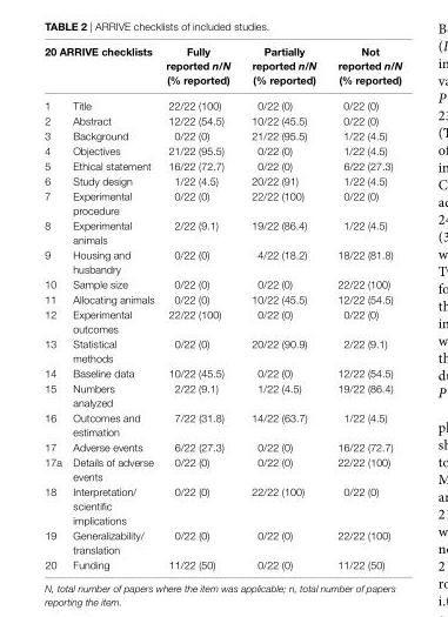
<table><thead><tr><td colspan="2">20 aRRive checklists</td><td rowspan="2">Fully reported n/N (% reported) 22/22 (100)</td><td rowspan="2">Partially reported n/N (% reported) 0/22 (0)</td><td rowspan="2">Not reported n/N (% reported) 0/22 (0)</td></tr><tr><td>1</td><td>Title</td></tr></thead><tbody><tr><td>2</td><td>Abstract</td><td>12/22 (54.5)</td><td>10/22 (45.5)</td><td>0/22 (0)</td></tr><tr><td>3</td><td>Background</td><td>0/22 (0)</td><td>21/22 (95.5)</td><td>1/22 (4.5)</td></tr><tr><td>4</td><td>Objectives</td><td>21/22 (95.5)</td><td>0/22 (0)</td><td>1/22 (4.5)</td></tr><tr><td>5</td><td>Ethical statement</td><td>16/22 (72.7)</td><td>0/22 (0)</td><td>6/22 (27.3)</td></tr><tr><td>6</td><td>Study design</td><td>1/22 (4.5)</td><td>20/22 (91)</td><td>1/22 (4.5)</td></tr><tr><td>7</td><td>Experimental procedure</td><td>0/22 (0)</td><td>22/22 (100)</td><td>0/22 (0)</td></tr><tr><td>8</td><td>Experimental animals</td><td>2/22 (9.1)</td><td>19/22 (86.4)</td><td>1/22 (4.5)</td></tr><tr><td>9</td><td>Housing and husbandry</td><td>0/22 (0)</td><td>4/22 (18.2)</td><td>18/22 (81.8)</td></tr><tr><td>10</td><td>Sample size</td><td>0/22 (0)</td><td>0/22 (0)</td><td>22/22 (100)</td></tr><tr><td>11</td><td>Allocating animals</td><td>0/22 (0)</td><td>10/22 (45.5)</td><td>12/22 (54.5)</td></tr><tr><td>12</td><td>Experimental outcomes</td><td>22/22 (100)</td><td>0/22 (0)</td><td>0/22 (0)</td></tr><tr><td>13</td><td>Statistical methods</td><td>0/22 (0)</td><td>20/22 (90.9)</td><td>2/22 (9.1)</td></tr><tr><td>14</td><td>Baseline data</td><td>10/22 (45.5)</td><td>0/22 (0)</td><td>12/22 (54.5)</td></tr><tr><td>15</td><td>Numbers analyzed</td><td>2/22 (9.1)</td><td>1/22 (4.5)</td><td>19/22 (86.4)</td></tr><tr><td>16</td><td>Outcomes and estimation</td><td>7/22 (31.8)</td><td>14/22 (63.7)</td><td>1/22 (4.5)</td></tr><tr><td>17</td><td>Adverse events</td><td>6/22 (27.3)</td><td>0/22 (0)</td><td>16/22 (72.7)</td></tr><tr><td>17a</td><td>Details of adverse events</td><td>0/22 (0)</td><td>0/22 (0)</td><td>22/22 (100)</td></tr><tr><td>18</td><td>Interpretation/ scientific implications</td><td>0/22 (0)</td><td>22/22 (100)</td><td>0/22 (0)</td></tr><tr><td>19</td><td>Generalizability/ translation</td><td>0/22 (0)</td><td>0/22 (0)</td><td>22/22 (100)</td></tr><tr><td>20</td><td>Funding</td><td>11/22 (50)</td><td>0/22 (0)</td><td>11/22 (50)</td></tr></tbody></table>